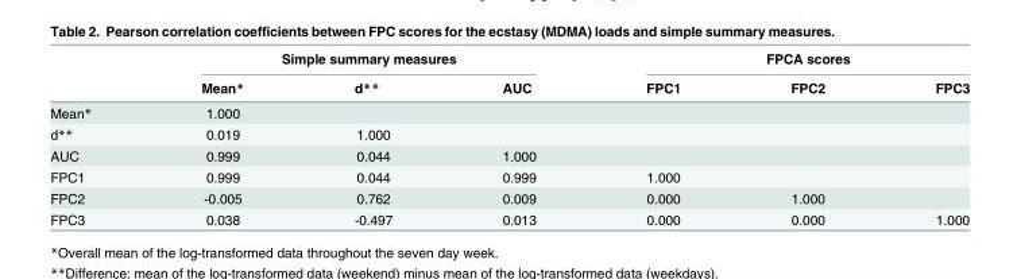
<table><thead><tr><td rowspan="2"></td><td colspan="3">Simple summary measures</td><td colspan="3">FPCA scores</td></tr><tr><td>Mean*</td><td>d**</td><td>AUC</td><td>FPC1</td><td>FPC2</td><td>FPC3</td></tr></thead><tbody><tr><td>Mean*</td><td>1.000</td><td></td><td></td><td></td><td></td><td></td></tr><tr><td>d**</td><td>0.019</td><td>1.000</td><td></td><td></td><td></td><td></td></tr><tr><td>AUC</td><td>0.999</td><td>0.044</td><td>1.000</td><td></td><td></td><td></td></tr><tr><td>FPC1</td><td>0.999</td><td>0.044</td><td>0.999</td><td>1.000</td><td></td><td></td></tr><tr><td>FPC2</td><td>-0.005</td><td>0.762</td><td>0.009</td><td>0.000</td><td>1.000</td><td></td></tr><tr><td>FPC3</td><td>0.038</td><td>-0.497</td><td>0.013</td><td>0.000</td><td>0.000</td><td>1.000</td></tr></tbody></table>